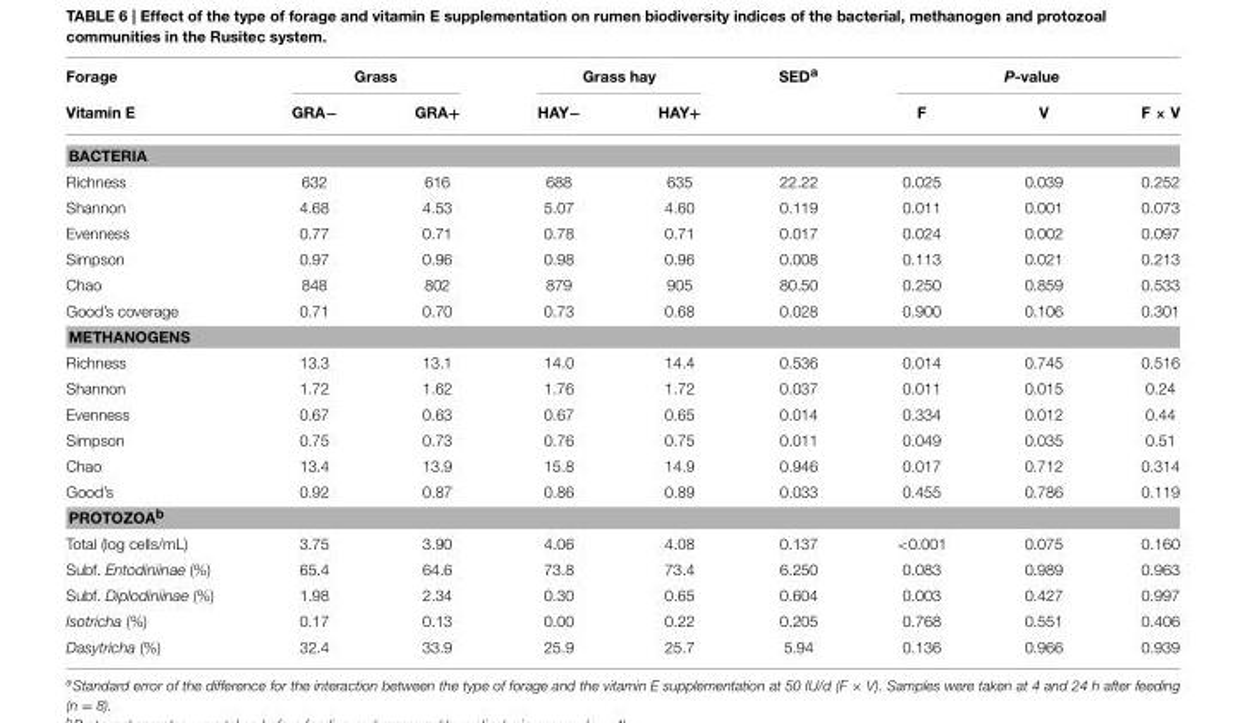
<table><thead><tr><td rowspan="2">Forage Vitamin E</td><td colspan="2">Grass</td><td colspan="2">Grass hay</td><td rowspan="2">SED<sup>a</sup></td><td colspan="3">P-value</td></tr><tr><td>GRA−</td><td>GRA+</td><td>HAY−</td><td>HAY+</td><td>F</td><td>V</td><td>F × V</td></tr></thead><tbody><tr><td colspan="9">BACTERIA</td></tr><tr><td>Richness</td><td>632</td><td>616</td><td>688</td><td>635</td><td>22.22</td><td>0.025</td><td>0.039</td><td>0.252</td></tr><tr><td>Shannon</td><td>4.68</td><td>4.53</td><td>5.07</td><td>4.60</td><td>0.119</td><td>0.011</td><td>0.001</td><td>0.073</td></tr><tr><td>Evenness</td><td>0.77</td><td>0.71</td><td>0.78</td><td>0.71</td><td>0.017</td><td>0.024</td><td>0.002</td><td>0.097</td></tr><tr><td>Simpson</td><td>0.97</td><td>0.96</td><td>0.98</td><td>0.96</td><td>0.008</td><td>0.113</td><td>0.021</td><td>0.213</td></tr><tr><td>Chao</td><td>848</td><td>802</td><td>879</td><td>905</td><td>80.50</td><td>0.250</td><td>0.859</td><td>0.533</td></tr><tr><td>Good’s coverage</td><td>0.71</td><td>0.70</td><td>0.73</td><td>0.68</td><td>0.028</td><td>0.900</td><td>0.106</td><td>0.301</td></tr><tr><td colspan="9">METHANOGENS</td></tr><tr><td>Richness</td><td>13.3</td><td>13.1</td><td>14.0</td><td>14.4</td><td>0.536</td><td>0.014</td><td>0.745</td><td>0.516</td></tr><tr><td>Shannon</td><td>1.72</td><td>1.62</td><td>1.76</td><td>1.72</td><td>0.037</td><td>0.011</td><td>0.015</td><td>0.24</td></tr><tr><td>Evenness</td><td>0.67</td><td>0.63</td><td>0.67</td><td>0.65</td><td>0.014</td><td>0.334</td><td>0.012</td><td>0.44</td></tr><tr><td>Simpson</td><td>0.75</td><td>0.73</td><td>0.76</td><td>0.75</td><td>0.011</td><td>0.049</td><td>0.035</td><td>0.51</td></tr><tr><td>Chao</td><td>13.4</td><td>13.9</td><td>15.8</td><td>14.9</td><td>0.946</td><td>0.017</td><td>0.712</td><td>0.314</td></tr><tr><td>Good’s</td><td>0.92</td><td>0.87</td><td>0.86</td><td>0.89</td><td>0.033</td><td>0.455</td><td>0.786</td><td>0.119</td></tr><tr><td colspan="9">PROTOZOA<sup>b</sup></td></tr><tr><td>Total (log cells/mL)</td><td>3.75</td><td>3.90</td><td>4.06</td><td>4.08</td><td>0.137</td><td>&lt;0.001</td><td>0.075</td><td>0.160</td></tr><tr><td>Subf. Entodiniinae (%)</td><td>65.4</td><td>64.6</td><td>73.8</td><td>73.4</td><td>6.250</td><td>0.083</td><td>0.989</td><td>0.963</td></tr><tr><td>Subf. Diplodiniinae (%)</td><td>1.98</td><td>2.34</td><td>0.30</td><td>0.65</td><td>0.604</td><td>0.003</td><td>0.427</td><td>0.997</td></tr><tr><td>Isotricha (%)</td><td>0.17</td><td>0.13</td><td>0.00</td><td>0.22</td><td>0.205</td><td>0.768</td><td>0.551</td><td>0.406</td></tr><tr><td>Dasytricha (%)</td><td>32.4</td><td>33.9</td><td>25.9</td><td>25.7</td><td>5.94</td><td>0.136</td><td>0.966</td><td>0.939</td></tr></tbody></table>